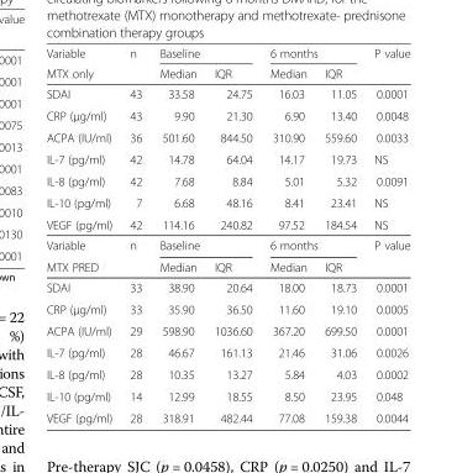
<table><thead><tr><td rowspan="2">Variable MTX only</td><td rowspan="2">n</td><td colspan="2">Baseline</td><td colspan="2">6 months</td><td rowspan="2">P value</td></tr><tr><td>Median</td><td>IQR</td><td>Median</td><td>IQR</td></tr></thead><tbody><tr><td>SDAI</td><td>43</td><td>33.58</td><td>24.75</td><td>16.03</td><td>11.05</td><td>0.0001</td></tr><tr><td>CRP (μg/ml)</td><td>43</td><td>9.90</td><td>21.30</td><td>6.90</td><td>13.40</td><td>0.0048</td></tr><tr><td>ACPA (IU/ml)</td><td>36</td><td>501.60</td><td>844.50</td><td>310.90</td><td>559.60</td><td>0.0033</td></tr><tr><td>IL-7 (pg/ml)</td><td>42</td><td>14.78</td><td>64.04</td><td>14.17</td><td>19.73</td><td>NS</td></tr><tr><td>IL-8 (pg/ml)</td><td>42</td><td>7.68</td><td>8.84</td><td>5.01</td><td>5.32</td><td>0.0091</td></tr><tr><td>IL-10 (pg/ml)</td><td>7</td><td>6.68</td><td>48.16</td><td>8.41</td><td>23.41</td><td>NS</td></tr><tr><td>VEGF (pg/ml)</td><td>42</td><td>114.16</td><td>240.82</td><td>97.52</td><td>184.54</td><td>NS</td></tr><tr><td>Variable</td><td rowspan="2">n</td><td colspan="2">Baseline</td><td colspan="2">6 months</td><td rowspan="2">P value</td></tr><tr><td>MTX PRED</td><td>Median</td><td>IQR</td><td>Median</td><td>IQR</td></tr><tr><td>SDAI</td><td>33</td><td>38.90</td><td>20.64</td><td>18.00</td><td>18.73</td><td>0.0001</td></tr><tr><td>CRP (μg/ml)</td><td>33</td><td>35.90</td><td>36.50</td><td>11.60</td><td>19.10</td><td>0.0005</td></tr><tr><td>ACPA (IU/ml)</td><td>29</td><td>598.90</td><td>1036.60</td><td>367.20</td><td>699.50</td><td>0.0001</td></tr><tr><td>IL-7 (pg/ml)</td><td>28</td><td>46.67</td><td>161.13</td><td>21.46</td><td>31.06</td><td>0.0026</td></tr><tr><td>IL-8 (pg/ml)</td><td>28</td><td>10.35</td><td>13.27</td><td>5.84</td><td>4.03</td><td>0.0002</td></tr><tr><td>IL-10 (pg/ml)</td><td>14</td><td>12.99</td><td>18.55</td><td>8.50</td><td>23.95</td><td>0.048</td></tr><tr><td>VEGF (pg/ml)</td><td>28</td><td>318.91</td><td>482.44</td><td>77.08</td><td>159.38</td><td>0.0044</td></tr></tbody></table>